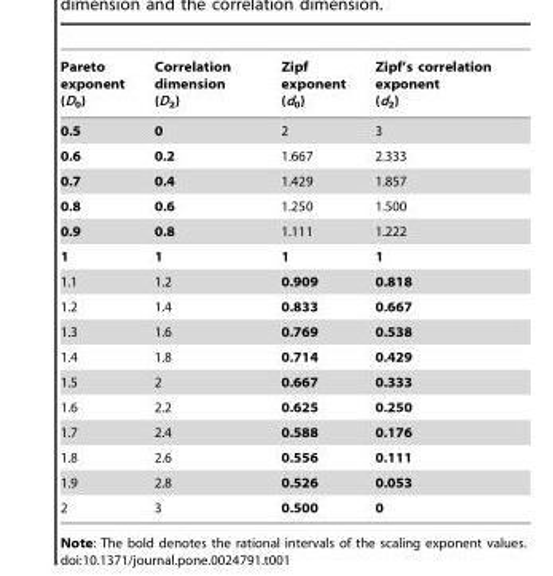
<table><thead><tr><td>Pareto exponent (D<sub>0</sub>)</td><td>Correlation dimension (D<sub>2</sub>)</td><td>Zipf exponent (d<sub>0</sub>)</td><td>Zipf’s correlation exponent (d<sub>2</sub>)</td></tr></thead><tbody><tr><td>0.5</td><td>0</td><td>2</td><td>3</td></tr><tr><td>0.6</td><td>0.2</td><td>1.667</td><td>2.333</td></tr><tr><td>0.7</td><td>0.4</td><td>1.429</td><td>1.857</td></tr><tr><td>0.8</td><td>0.6</td><td>1.250</td><td>1.500</td></tr><tr><td>0.9</td><td>0.8</td><td>1.111</td><td>1.222</td></tr><tr><td>1</td><td>1</td><td>1</td><td>1</td></tr><tr><td>1.1</td><td>1.2</td><td>0.909</td><td>0.818</td></tr><tr><td>1.2</td><td>1.4</td><td>0.833</td><td>0.667</td></tr><tr><td>1.3</td><td>1.6</td><td>0.769</td><td>0.538</td></tr><tr><td>1.4</td><td>1.8</td><td>0.714</td><td>0.429</td></tr><tr><td>1.5</td><td>2</td><td>0.667</td><td>0.333</td></tr><tr><td>1.6</td><td>2.2</td><td>0.625</td><td>0.250</td></tr><tr><td>1.7</td><td>2.4</td><td>0.588</td><td>0.176</td></tr><tr><td>1.8</td><td>2.6</td><td>0.556</td><td>0.111</td></tr><tr><td>1.9</td><td>2.8</td><td>0.526</td><td>0.053</td></tr><tr><td>2</td><td>3</td><td>0.500</td><td>0</td></tr></tbody></table>